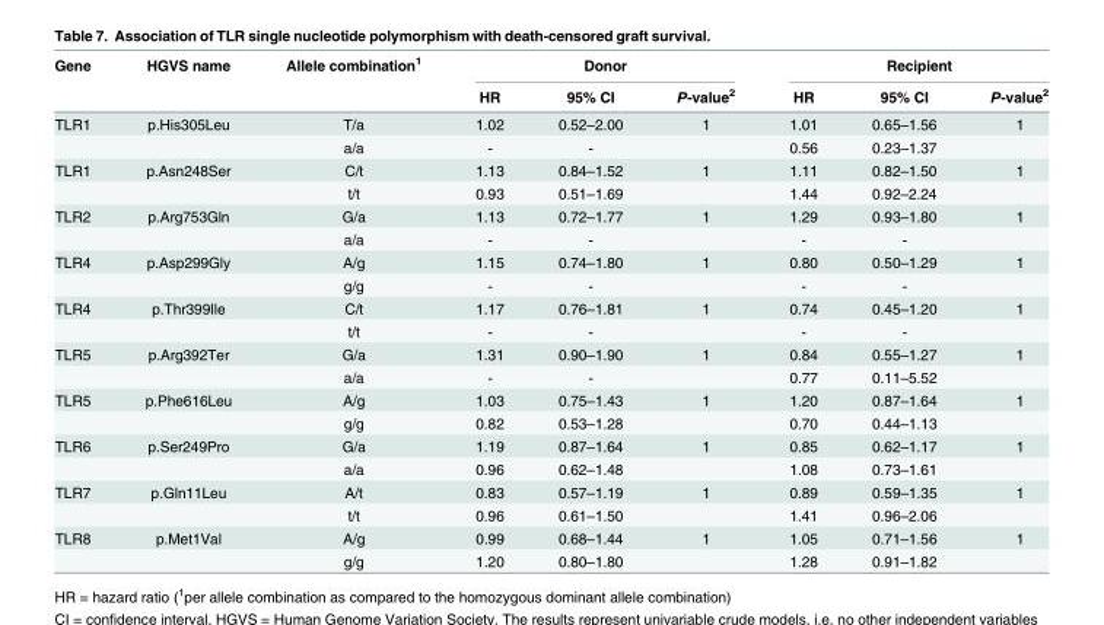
<table><thead><tr><td rowspan="2">Gene</td><td rowspan="2">HGVS name</td><td rowspan="2">Allele combination<sup>1</sup></td><td colspan="3">Donor</td><td colspan="3">Recipient</td></tr><tr><td>HR</td><td>95% CI</td><td>P-value<sup>2</sup></td><td>HR</td><td>95% CI</td><td>P-value<sup>2</sup></td></tr></thead><tbody><tr><td rowspan="2">TLR1</td><td>p.His305Leu</td><td>T/a</td><td>1.02</td><td>0.52–2.00</td><td>1</td><td>1.01</td><td>0.65–1.56</td><td>1</td></tr><tr><td></td><td>a/a</td><td>-</td><td>-</td><td></td><td>0.56</td><td>0.23–1.37</td><td></td></tr><tr><td rowspan="2">TLR1</td><td>p.Asn248Ser</td><td>C/t</td><td>1.13</td><td>0.84–1.52</td><td>1</td><td>1.11</td><td>0.82–1.50</td><td>1</td></tr><tr><td></td><td>t/t</td><td>0.93</td><td>0.51–1.69</td><td></td><td>1.44</td><td>0.92–2.24</td><td></td></tr><tr><td rowspan="2">TLR2</td><td>p.Arg753Gln</td><td>G/a</td><td>1.13</td><td>0.72–1.77</td><td>1</td><td>1.29</td><td>0.93–1.80</td><td>1</td></tr><tr><td></td><td>a/a</td><td>-</td><td>-</td><td></td><td>-</td><td>-</td><td></td></tr><tr><td rowspan="2">TLR4</td><td>p.Asp299Gly</td><td>A/g</td><td>1.15</td><td>0.74–1.80</td><td>1</td><td>0.80</td><td>0.50–1.29</td><td>1</td></tr><tr><td></td><td>g/g</td><td>-</td><td>-</td><td></td><td>-</td><td>-</td><td></td></tr><tr><td rowspan="2">TLR4</td><td>p.Thr399Ile</td><td>C/t</td><td>1.17</td><td>0.76–1.81</td><td>1</td><td>0.74</td><td>0.45–1.20</td><td>1</td></tr><tr><td></td><td>t/t</td><td>-</td><td>-</td><td></td><td>-</td><td>-</td><td></td></tr><tr><td rowspan="2">TLR5</td><td>p.Arg392Ter</td><td>G/a</td><td>1.31</td><td>0.90–1.90</td><td>1</td><td>0.84</td><td>0.55–1.27</td><td>1</td></tr><tr><td></td><td>a/a</td><td>-</td><td>-</td><td></td><td>0.77</td><td>0.11–5.52</td><td></td></tr><tr><td rowspan="2">TLR5</td><td>p.Phe616Leu</td><td>A/g</td><td>1.03</td><td>0.75–1.43</td><td>1</td><td>1.20</td><td>0.87–1.64</td><td>1</td></tr><tr><td></td><td>g/g</td><td>0.82</td><td>0.53–1.28</td><td></td><td>0.70</td><td>0.44–1.13</td><td></td></tr><tr><td rowspan="2">TLR6</td><td>p.Ser249Pro</td><td>G/a</td><td>1.19</td><td>0.87–1.64</td><td>1</td><td>0.85</td><td>0.62–1.17</td><td>1</td></tr><tr><td></td><td>a/a</td><td>0.96</td><td>0.62–1.48</td><td></td><td>1.08</td><td>0.73–1.61</td><td></td></tr><tr><td rowspan="2">TLR7</td><td>p.Gln11Leu</td><td>A/t</td><td>0.83</td><td>0.57–1.19</td><td>1</td><td>0.89</td><td>0.59–1.35</td><td>1</td></tr><tr><td></td><td>t/t</td><td>0.96</td><td>0.61–1.50</td><td></td><td>1.41</td><td>0.96–2.06</td><td></td></tr><tr><td rowspan="2">TLR8</td><td>p.Met1Val</td><td>A/g</td><td>0.99</td><td>0.68–1.44</td><td>1</td><td>1.05</td><td>0.71–1.56</td><td>1</td></tr><tr><td></td><td>g/g</td><td>1.20</td><td>0.80–1.80</td><td></td><td>1.28</td><td>0.91–1.82</td><td></td></tr></tbody></table>